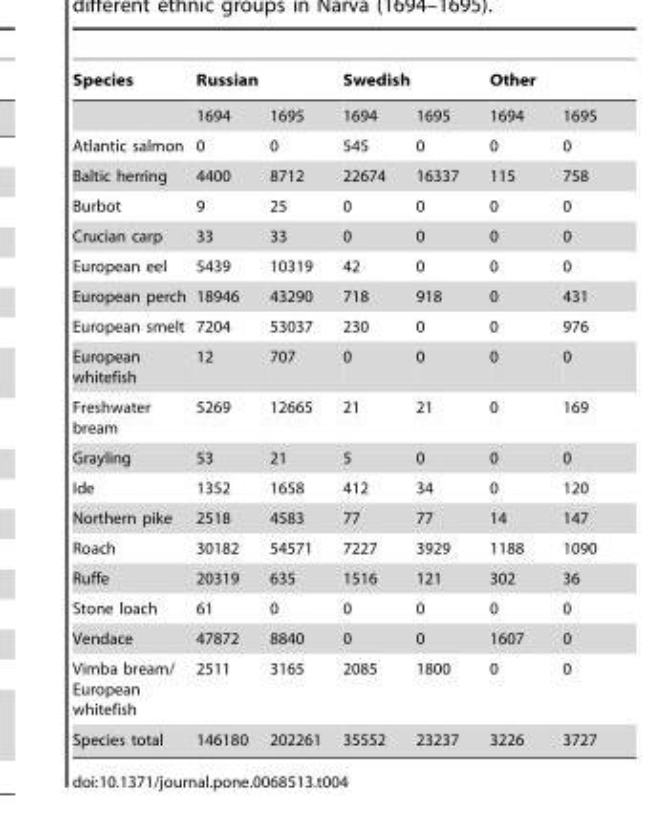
<table><thead><tr><td rowspan="2">Species</td><td colspan="2">Russian</td><td colspan="2">Swedish</td><td colspan="2">Other</td></tr><tr><td>1694</td><td>1695</td><td>1694</td><td>1695</td><td>1694</td><td>1695</td></tr></thead><tbody><tr><td>Atlantic salmon</td><td>0</td><td>0</td><td>545</td><td>0</td><td>0</td><td>0</td></tr><tr><td>Baltic herring</td><td>4400</td><td>8712</td><td>22674</td><td>16337</td><td>115</td><td>758</td></tr><tr><td>Burbot</td><td>9</td><td>25</td><td>0</td><td>0</td><td>0</td><td>0</td></tr><tr><td>Crucian carp</td><td>33</td><td>33</td><td>0</td><td>0</td><td>0</td><td>0</td></tr><tr><td>European eel</td><td>5439</td><td>10319</td><td>42</td><td>0</td><td>0</td><td>0</td></tr><tr><td>European perch</td><td>18946</td><td>43290</td><td>718</td><td>918</td><td>0</td><td>431</td></tr><tr><td>European smelt</td><td>7204</td><td>53037</td><td>230</td><td>0</td><td>0</td><td>976</td></tr><tr><td>European whitefish</td><td>12</td><td>707</td><td>0</td><td>0</td><td>0</td><td>0</td></tr><tr><td>Freshwater bream</td><td>5269</td><td>12665</td><td>21</td><td>21</td><td>0</td><td>169</td></tr><tr><td>Grayling</td><td>53</td><td>21</td><td>5</td><td>0</td><td>0</td><td>0</td></tr><tr><td>Ide</td><td>1352</td><td>1658</td><td>412</td><td>34</td><td>0</td><td>120</td></tr><tr><td>Northern pike</td><td>2518</td><td>4583</td><td>77</td><td>77</td><td>14</td><td>147</td></tr><tr><td>Roach</td><td>30182</td><td>54571</td><td>7227</td><td>3929</td><td>1188</td><td>1090</td></tr><tr><td>Ruffe</td><td>20319</td><td>635</td><td>1516</td><td>121</td><td>302</td><td>36</td></tr><tr><td>Stone loach</td><td>61</td><td>0</td><td>0</td><td>0</td><td>0</td><td>0</td></tr><tr><td>Vendace</td><td>47872</td><td>8840</td><td>0</td><td>0</td><td>1607</td><td>0</td></tr><tr><td>Vimba bream/ European whitefish</td><td>2511</td><td>3165</td><td>2085</td><td>1800</td><td>0</td><td>0</td></tr><tr><td>Species total</td><td>146180</td><td>202261</td><td>35552</td><td>23237</td><td>3226</td><td>3727</td></tr></tbody></table>